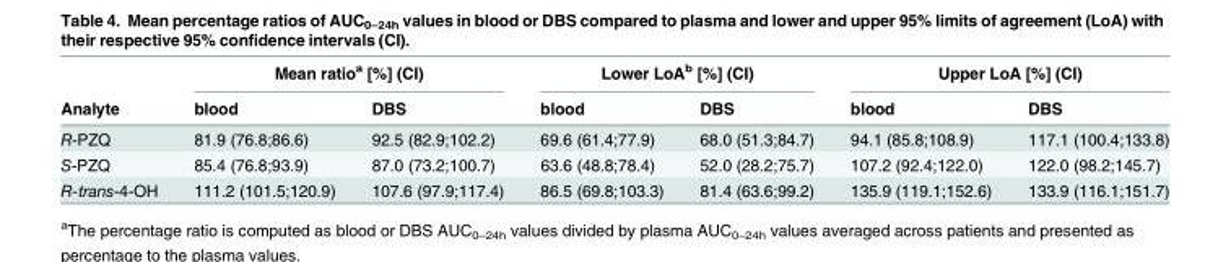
<table><thead><tr><td rowspan="2">Analyte</td><td colspan="2">Mean ratio<sup>a</sup> [%] (CI)</td><td colspan="2">Lower LoA<sup>b</sup> [%] (CI)</td><td colspan="2">Upper LoA [%] (CI)</td></tr><tr><td>blood</td><td>DBS</td><td>blood</td><td>DBS</td><td>blood</td><td>DBS</td></tr></thead><tbody><tr><td>R-PZQ</td><td>81.9 (76.8;86.6)</td><td>92.5 (82.9;102.2)</td><td>69.6 (61.4;77.9)</td><td>68.0 (51.3;84.7)</td><td>94.1 (85.8;108.9)</td><td>117.1 (100.4;133.8)</td></tr><tr><td>S-PZQ</td><td>85.4 (76.8;93.9)</td><td>87.0 (73.2;100.7)</td><td>63.6 (48.8;78.4)</td><td>52.0 (28.2;75.7)</td><td>107.2 (92.4;122.0)</td><td>122.0 (98.2;145.7)</td></tr><tr><td>R-trans-4-OH</td><td>111.2 (101.5;120.9)</td><td>107.6 (97.9;117.4)</td><td>86.5 (69.8;103.3)</td><td>81.4 (63.6;99.2)</td><td>135.9 (119.1;152.6)</td><td>133.9 (116.1;151.7)</td></tr></tbody></table>